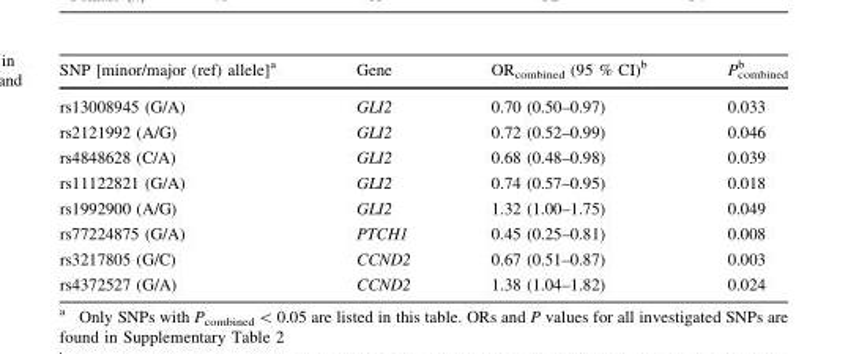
<table><thead><tr><td>SNP [minor/major (ref) allele]<sup>a</sup></td><td>Gene</td><td>OR<sub>combined</sub> (95 % CI)<sup>b</sup></td><td>P<sub>combined</sub> <sup>b</sup></td></tr></thead><tbody><tr><td>rs13008945 (G/A)</td><td>GLI2</td><td>0.70 (0.50–0.97)</td><td>0.033</td></tr><tr><td>rs2121992 (A/G)</td><td>GLI2</td><td>0.72 (0.52–0.99)</td><td>0.046</td></tr><tr><td>rs4848628 (C/A)</td><td>GLI2</td><td>0.68 (0.48–0.98)</td><td>0.039</td></tr><tr><td>rs11122821 (G/A)</td><td>GLI2</td><td>0.74 (0.57–0.95)</td><td>0.018</td></tr><tr><td>rs1992900 (A/G)</td><td>GLI2</td><td>1.32 (1.00–1.75)</td><td>0.049</td></tr><tr><td>rs77224875 (G/A)</td><td>PTCH1</td><td>0.45 (0.25–0.81)</td><td>0.008</td></tr><tr><td>rs3217805 (G/C)</td><td>CCND2</td><td>0.67 (0.51–0.87)</td><td>0.003</td></tr><tr><td>rs4372527 (G/A)</td><td>CCND2</td><td>1.38 (1.04–1.82)</td><td>0.024</td></tr></tbody></table>